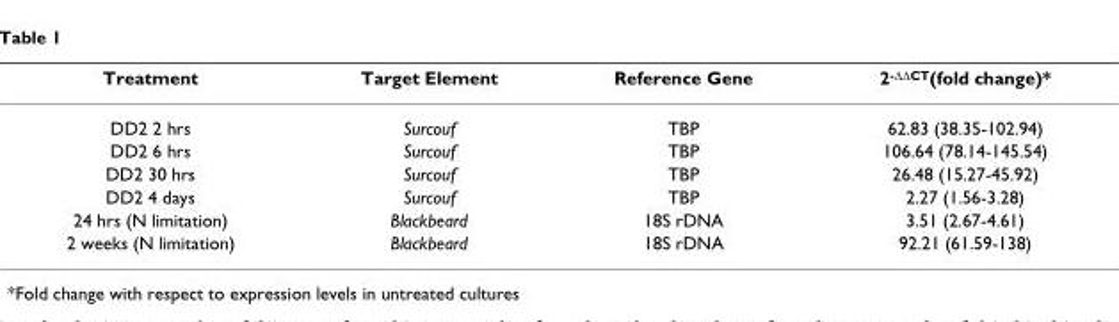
<table><thead><tr><td>Treatment</td><td>Target Element</td><td>Reference Gene</td><td>2<sup>-ΔΔCT</sup>(fold change)*</td></tr></thead><tbody><tr><td>DD2 2 hrs</td><td>Surcouf</td><td>TBP</td><td>62.83 (38.35-102.94)</td></tr><tr><td>DD2 6 hrs</td><td>Surcouf</td><td>TBP</td><td>106.64 (78.14-145.54)</td></tr><tr><td>DD2 30 hrs</td><td>Surcouf</td><td>TBP</td><td>26.48 (15.27-45.92)</td></tr><tr><td>DD2 4 days</td><td>Surcouf</td><td>TBP</td><td>2.27 (1.56-3.28)</td></tr><tr><td>24 hrs (N limitation)</td><td>Blackbeard</td><td>18S rDNA</td><td>3.51 (2.67-4.61)</td></tr><tr><td>2 weeks (N limitation)</td><td>Blackbeard</td><td>18S rDNA</td><td>92.21 (61.59-138)</td></tr></tbody></table>